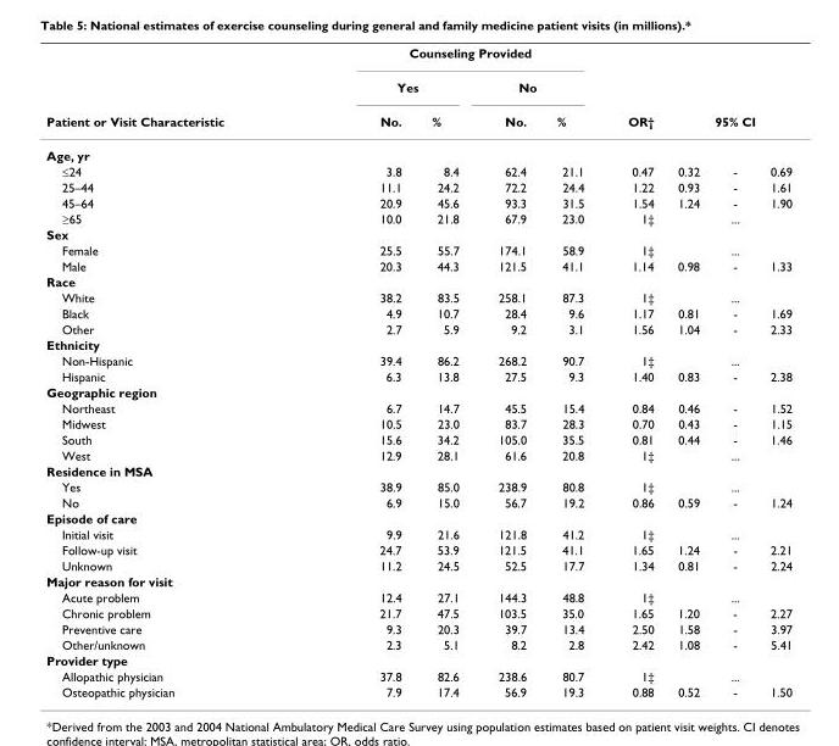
<table><thead><tr><td rowspan="3">Patient or Visit Characteristic</td><td colspan="4">Counseling Provided</td><td rowspan="3">OR†</td><td rowspan="2"></td><td rowspan="2"></td><td rowspan="2"></td></tr><tr><td colspan="2">Yes</td><td colspan="2">No</td></tr><tr><td>No.</td><td>%</td><td>No.</td><td>%</td><td colspan="3">95% CI</td></tr></thead><tbody><tr><td colspan="9">Age, yr</td></tr><tr><td>≤24</td><td>3.8</td><td>8.4</td><td>62.4</td><td>21.1</td><td>0.47</td><td>0.32</td><td>-</td><td>0.69</td></tr><tr><td>25–44</td><td>11.1</td><td>24.2</td><td>72.2</td><td>24.4</td><td>1.22</td><td>0.93</td><td>-</td><td>1.61</td></tr><tr><td>45–64</td><td>20.9</td><td>45.6</td><td>93.3</td><td>31.5</td><td>1.54</td><td>1.24</td><td>-</td><td>1.90</td></tr><tr><td>≥65</td><td>10.0</td><td>21.8</td><td>67.9</td><td>23.0</td><td>1‡</td><td></td><td>...</td><td></td></tr><tr><td colspan="9">Sex</td></tr><tr><td>Female</td><td>25.5</td><td>55.7</td><td>174.1</td><td>58.9</td><td>1‡</td><td></td><td>...</td><td></td></tr><tr><td>Male</td><td>20.3</td><td>44.3</td><td>121.5</td><td>41.1</td><td>1.14</td><td>0.98</td><td>-</td><td>1.33</td></tr><tr><td colspan="9">Race</td></tr><tr><td>White</td><td>38.2</td><td>83.5</td><td>258.1</td><td>87.3</td><td>1‡</td><td></td><td>...</td><td></td></tr><tr><td>Black</td><td>4.9</td><td>10.7</td><td>28.4</td><td>9.6</td><td>1.17</td><td>0.81</td><td>-</td><td>1.69</td></tr><tr><td>Other</td><td>2.7</td><td>5.9</td><td>9.2</td><td>3.1</td><td>1.56</td><td>1.04</td><td>-</td><td>2.33</td></tr><tr><td colspan="9">Ethnicity</td></tr><tr><td>Non-Hispanic</td><td>39.4</td><td>86.2</td><td>268.2</td><td>90.7</td><td>1‡</td><td></td><td>...</td><td></td></tr><tr><td>Hispanic</td><td>6.3</td><td>13.8</td><td>27.5</td><td>9.3</td><td>1.40</td><td>0.83</td><td>-</td><td>2.38</td></tr><tr><td colspan="9">Geographic region</td></tr><tr><td>Northeast</td><td>6.7</td><td>14.7</td><td>45.5</td><td>15.4</td><td>0.84</td><td>0.46</td><td>-</td><td>1.52</td></tr><tr><td>Midwest</td><td>10.5</td><td>23.0</td><td>83.7</td><td>28.3</td><td>0.70</td><td>0.43</td><td>-</td><td>1.15</td></tr><tr><td>South</td><td>15.6</td><td>34.2</td><td>105.0</td><td>35.5</td><td>0.81</td><td>0.44</td><td>-</td><td>1.46</td></tr><tr><td>West</td><td>12.9</td><td>28.1</td><td>61.6</td><td>20.8</td><td>1‡</td><td></td><td>...</td><td></td></tr><tr><td colspan="9">Residence in MSA</td></tr><tr><td>Yes</td><td>38.9</td><td>85.0</td><td>238.9</td><td>80.8</td><td>1‡</td><td></td><td>...</td><td></td></tr><tr><td>No</td><td>6.9</td><td>15.0</td><td>56.7</td><td>19.2</td><td>0.86</td><td>0.59</td><td>-</td><td>1.24</td></tr><tr><td colspan="9">Episode of care</td></tr><tr><td>Initial visit</td><td>9.9</td><td>21.6</td><td>121.8</td><td>41.2</td><td>1‡</td><td></td><td>...</td><td></td></tr><tr><td>Follow-up visit</td><td>24.7</td><td>53.9</td><td>121.5</td><td>41.1</td><td>1.65</td><td>1.24</td><td>-</td><td>2.21</td></tr><tr><td>Unknown</td><td>11.2</td><td>24.5</td><td>52.5</td><td>17.7</td><td>1.34</td><td>0.81</td><td>-</td><td>2.24</td></tr><tr><td colspan="9">Major reason for visit</td></tr><tr><td>Acute problem</td><td>12.4</td><td>27.1</td><td>144.3</td><td>48.8</td><td>1‡</td><td></td><td>...</td><td></td></tr><tr><td>Chronic problem</td><td>21.7</td><td>47.5</td><td>103.5</td><td>35.0</td><td>1.65</td><td>1.20</td><td>-</td><td>2.27</td></tr><tr><td>Preventive care</td><td>9.3</td><td>20.3</td><td>39.7</td><td>13.4</td><td>2.50</td><td>1.58</td><td>-</td><td>3.97</td></tr><tr><td>Other/unknown</td><td>2.3</td><td>5.1</td><td>8.2</td><td>2.8</td><td>2.42</td><td>1.08</td><td>-</td><td>5.41</td></tr><tr><td colspan="9">Provider type</td></tr><tr><td>Allopathic physician</td><td>37.8</td><td>82.6</td><td>238.6</td><td>80.7</td><td>1‡</td><td></td><td>...</td><td></td></tr><tr><td>Osteopathic physician</td><td>7.9</td><td>17.4</td><td>56.9</td><td>19.3</td><td>0.88</td><td>0.52</td><td>-</td><td>1.50</td></tr></tbody></table>